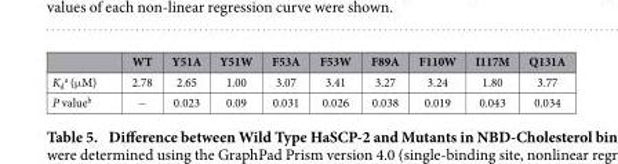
<table><thead><tr><td></td><td>WT</td><td>Y51A</td><td>Y51W</td><td>F53A</td><td>F53W</td><td>F89A</td><td>F110W</td><td>I117M</td><td>Q131A</td></tr></thead><tbody><tr><td>K<sub>d</sub> <sup>a</sup> (μ M)</td><td>2.78</td><td>2.65</td><td>1.00</td><td>3.07</td><td>3.41</td><td>3.27</td><td>3.24</td><td>1.80</td><td>3.77</td></tr><tr><td>P value<sup>b</sup></td><td>−</td><td>0.023</td><td>0.09</td><td>0.031</td><td>0.026</td><td>0.038</td><td>0.019</td><td>0.043</td><td>0.034</td></tr></tbody></table>